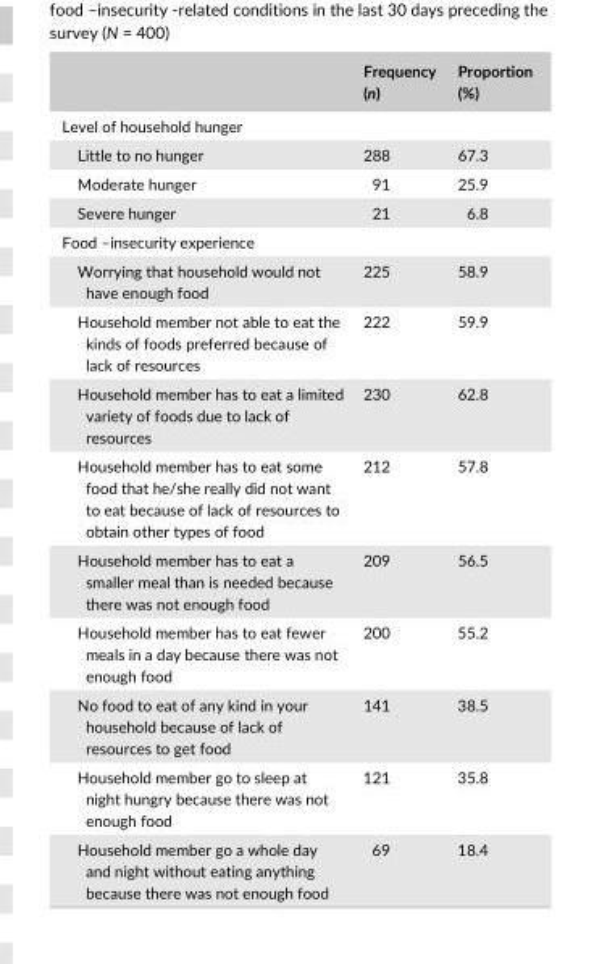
<table><thead><tr><td></td><td>Frequency (n)</td><td>Proportion (%)</td></tr></thead><tbody><tr><td colspan="3">Level of household hunger</td></tr><tr><td>Little to no hunger</td><td>288</td><td>67.3</td></tr><tr><td>Moderate hunger</td><td>91</td><td>25.9</td></tr><tr><td>Severe hunger</td><td>21</td><td>6.8</td></tr><tr><td colspan="3">Food –insecurity experience</td></tr><tr><td>Worrying that household would not have enough food</td><td>225</td><td>58.9</td></tr><tr><td>Household member not able to eat the kinds of foods preferred because of lack of resources</td><td>222</td><td>59.9</td></tr><tr><td>Household member has to eat a limited variety of foods due to lack of resources</td><td>230</td><td>62.8</td></tr><tr><td>Household member has to eat some food that he/she really did not want to eat because of lack of resources to obtain other types of food</td><td>212</td><td>57.8</td></tr><tr><td>Household member has to eat a smaller meal than is needed because there was not enough food</td><td>209</td><td>56.5</td></tr><tr><td>Household member has to eat fewer meals in a day because there was not enough food</td><td>200</td><td>55.2</td></tr><tr><td>No food to eat of any kind in your household because of lack of resources to get food</td><td>141</td><td>38.5</td></tr><tr><td>Household member go to sleep at night hungry because there was not enough food</td><td>121</td><td>35.8</td></tr><tr><td>Household member go a whole day and night without eating anything because there was not enough food</td><td>69</td><td>18.4</td></tr></tbody></table>